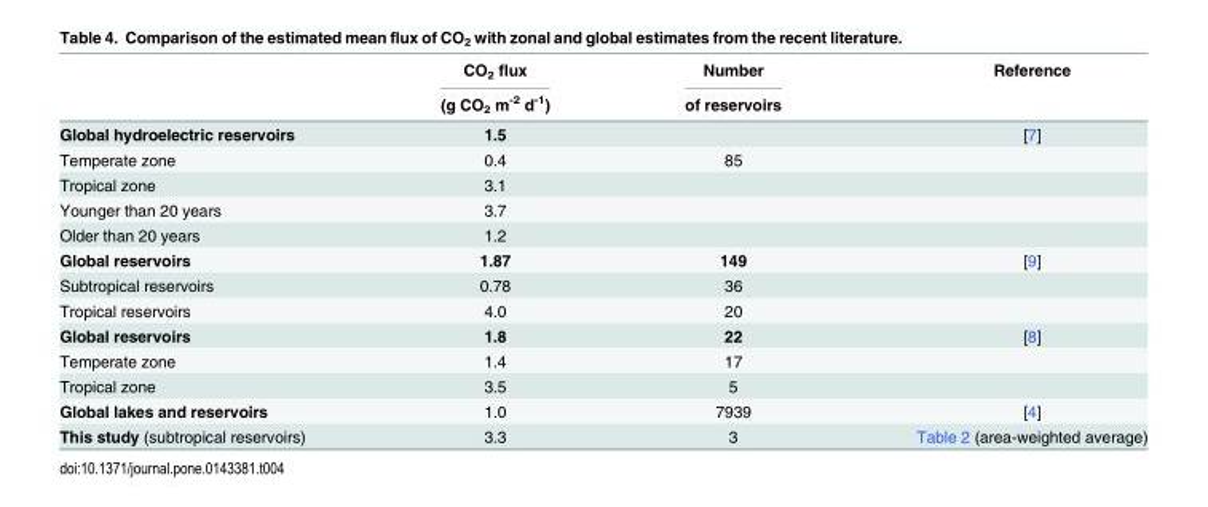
<table><thead><tr><td rowspan="2"></td><td rowspan="2">CO<sub>2</sub> flux (g CO<sub>2</sub> m<sup>-2</sup> d<sup>-1</sup>)</td><td rowspan="2">Number of reservoirs</td><td rowspan="2">Reference</td></tr><tr></tr></thead><tbody><tr><td>Global hydroelectric reservoirs</td><td>1.5</td><td></td><td>[7]</td></tr><tr><td>Temperate zone</td><td>0.4</td><td>85</td><td></td></tr><tr><td>Tropical zone</td><td>3.1</td><td></td><td></td></tr><tr><td>Younger than 20 years</td><td>3.7</td><td></td><td></td></tr><tr><td>Older than 20 years</td><td>1.2</td><td></td><td></td></tr><tr><td>Global reservoirs</td><td>1.87</td><td>149</td><td>[9]</td></tr><tr><td>Subtropical reservoirs</td><td>0.78</td><td>36</td><td></td></tr><tr><td>Tropical reservoirs</td><td>4.0</td><td>20</td><td></td></tr><tr><td>Global reservoirs</td><td>1.8</td><td>22</td><td>[8]</td></tr><tr><td>Temperate zone</td><td>1.4</td><td>17</td><td></td></tr><tr><td>Tropical zone</td><td>3.5</td><td>5</td><td></td></tr><tr><td>Global lakes and reservoirs</td><td>1.0</td><td>7939</td><td>[4]</td></tr><tr><td>This study (subtropical reservoirs)</td><td>3.3</td><td>3</td><td>Table 2 (area-weighted average)</td></tr></tbody></table>